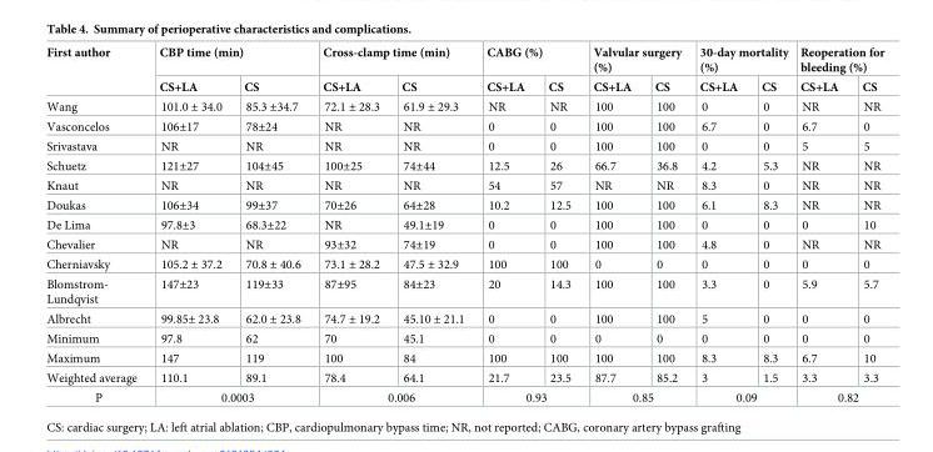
<table><thead><tr><td rowspan="2">First author</td><td colspan="2">CBP time (min)</td><td colspan="2">Cross-clamp time (min)</td><td colspan="2">CABG (%)</td><td colspan="2">Valvular surgery (%)</td><td colspan="2">30-day mortality (%)</td><td colspan="2">Reoperation for bleeding (%)</td></tr><tr><td>CS+LA</td><td>CS</td><td>CS+LA</td><td>CS</td><td>CS+LA</td><td>CS</td><td>CS+LA</td><td>CS</td><td>CS+LA</td><td>CS</td><td>CS+LA</td><td>CS</td></tr></thead><tbody><tr><td>Wang</td><td>101.0 ± 34.0</td><td>85.3 ±34.7</td><td>72.1 ± 28.3</td><td>61.9 ± 29.3</td><td>NR</td><td>NR</td><td>100</td><td>100</td><td>0</td><td>0</td><td>NR</td><td>NR</td></tr><tr><td>Vasconcelos</td><td>106±17</td><td>78±24</td><td>NR</td><td>NR</td><td>0</td><td>0</td><td>100</td><td>100</td><td>6.7</td><td>0</td><td>6.7</td><td>0</td></tr><tr><td>Srivastava</td><td>NR</td><td>NR</td><td>NR</td><td>NR</td><td>0</td><td>0</td><td>100</td><td>100</td><td>0</td><td>0</td><td>5</td><td>5</td></tr><tr><td>Schuetz</td><td>121±27</td><td>104±45</td><td>100±25</td><td>74±44</td><td>12.5</td><td>26</td><td>66.7</td><td>36.8</td><td>4.2</td><td>5.3</td><td>NR</td><td>NR</td></tr><tr><td>Knaut</td><td>NR</td><td>NR</td><td>NR</td><td>NR</td><td>54</td><td>57</td><td>NR</td><td>NR</td><td>8.3</td><td>0</td><td>NR</td><td>NR</td></tr><tr><td>Doukas</td><td>106±34</td><td>99±37</td><td>70±26</td><td>64±28</td><td>10.2</td><td>12.5</td><td>100</td><td>100</td><td>6.1</td><td>8.3</td><td>NR</td><td>NR</td></tr><tr><td>De Lima</td><td>97.8±3</td><td>68.3±22</td><td>NR</td><td>49.1±19</td><td>0</td><td>0</td><td>100</td><td>100</td><td>0</td><td>0</td><td>0</td><td>10</td></tr><tr><td>Chevalier</td><td>NR</td><td>NR</td><td>93±32</td><td>74±19</td><td>0</td><td>0</td><td>100</td><td>100</td><td>4.8</td><td>0</td><td>NR</td><td>NR</td></tr><tr><td>Cherniavsky</td><td>105.2 ± 37.2</td><td>70.8 ± 40.6</td><td>73.1 ± 28.2</td><td>47.5 ± 32.9</td><td>100</td><td>100</td><td>0</td><td>0</td><td>0</td><td>0</td><td>0</td><td>0</td></tr><tr><td>Blomstrom- Lundqvist</td><td>147±23</td><td>119±33</td><td>87±95</td><td>84±23</td><td>20</td><td>14.3</td><td>100</td><td>100</td><td>3.3</td><td>0</td><td>5.9</td><td>5.7</td></tr><tr><td>Albrecht</td><td>99.85± 23.8</td><td>62.0 ± 23.8</td><td>74.7 ± 19.2</td><td>45.10 ± 21.1</td><td>0</td><td>0</td><td>100</td><td>100</td><td>5</td><td>0</td><td>0</td><td>0</td></tr><tr><td>Minimum</td><td>97.8</td><td>62</td><td>70</td><td>45.1</td><td>0</td><td>0</td><td>0</td><td>0</td><td>0</td><td>0</td><td>0</td><td>0</td></tr><tr><td>Maximum</td><td>147</td><td>119</td><td>100</td><td>84</td><td>100</td><td>100</td><td>100</td><td>100</td><td>8.3</td><td>8.3</td><td>6.7</td><td>10</td></tr><tr><td>Weighted average</td><td>110.1</td><td>89.1</td><td>78.4</td><td>64.1</td><td>21.7</td><td>23.5</td><td>87.7</td><td>85.2</td><td>3</td><td>1.5</td><td>3.3</td><td>3.3</td></tr><tr><td>P</td><td colspan="2">0.0003</td><td colspan="2">0.006</td><td colspan="2">0.93</td><td colspan="2">0.85</td><td colspan="2">0.09</td><td colspan="2">0.82</td></tr></tbody></table>